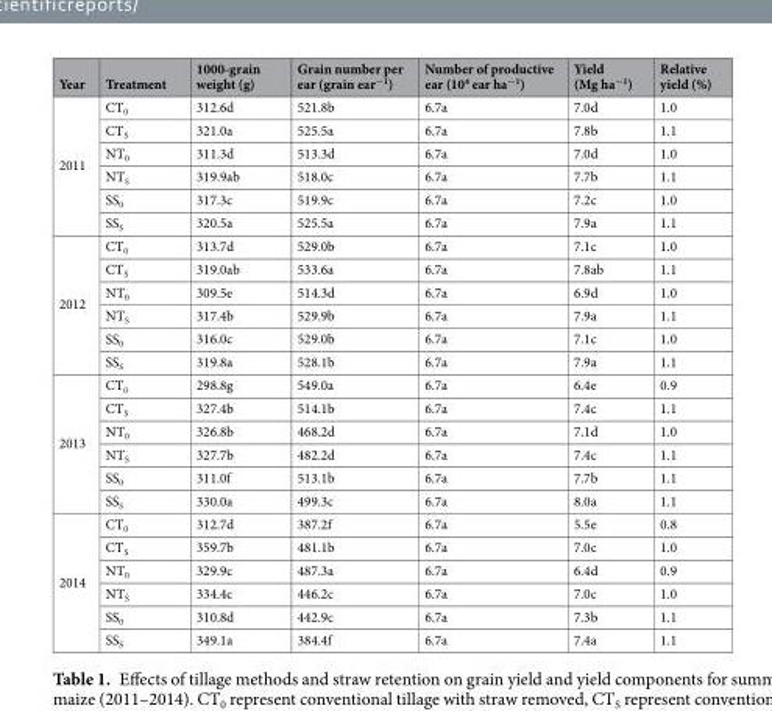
<table><thead><tr><td>Year</td><td>Treatment</td><td>1000-grain weight (g)</td><td>Grain number per ear (grain ear<sup>−1</sup>)</td><td>Number of productive ear (10<sup>4</sup> ear ha<sup>−1</sup>)</td><td>Yield (Mg ha<sup>−1</sup>)</td><td>Relative yield (%)</td></tr></thead><tbody><tr><td rowspan="6">2011</td><td>CT<sub>0</sub></td><td>312.6d</td><td>521.8b</td><td>6.7a</td><td>7.0d</td><td>1.0</td></tr><tr><td>CT<sub>S</sub></td><td>321.0a</td><td>525.5a</td><td>6.7a</td><td>7.8b</td><td>1.1</td></tr><tr><td>NT<sub>0</sub></td><td>311.3d</td><td>513.3d</td><td>6.7a</td><td>7.0d</td><td>1.0</td></tr><tr><td>NT<sub>S</sub></td><td>319.9ab</td><td>518.0c</td><td>6.7a</td><td>7.7b</td><td>1.1</td></tr><tr><td>SS<sub>0</sub></td><td>317.3c</td><td>519.9c</td><td>6.7a</td><td>7.2c</td><td>1.0</td></tr><tr><td>SS<sub>S</sub></td><td>320.5a</td><td>525.5a</td><td>6.7a</td><td>7.9a</td><td>1.1</td></tr><tr><td rowspan="6">2012</td><td>CT<sub>0</sub></td><td>313.7d</td><td>529.0b</td><td>6.7a</td><td>7.1c</td><td>1.0</td></tr><tr><td>CT<sub>S</sub></td><td>319.0ab</td><td>533.6a</td><td>6.7a</td><td>7.8ab</td><td>1.1</td></tr><tr><td>NT<sub>0</sub></td><td>309.5e</td><td>514.3d</td><td>6.7a</td><td>6.9d</td><td>1.0</td></tr><tr><td>NT<sub>S</sub></td><td>317.4b</td><td>529.9b</td><td>6.7a</td><td>7.9a</td><td>1.1</td></tr><tr><td>SS<sub>0</sub></td><td>316.0c</td><td>529.0b</td><td>6.7a</td><td>7.1c</td><td>1.0</td></tr><tr><td>SS<sub>S</sub></td><td>319.8a</td><td>528.1b</td><td>6.7a</td><td>7.9a</td><td>1.1</td></tr><tr><td rowspan="6">2013</td><td>CT<sub>0</sub></td><td>298.8g</td><td>549.0a</td><td>6.7a</td><td>6.4e</td><td>0.9</td></tr><tr><td>CT<sub>S</sub></td><td>327.4b</td><td>514.1b</td><td>6.7a</td><td>7.4c</td><td>1.1</td></tr><tr><td>NT<sub>0</sub></td><td>326.8b</td><td>468.2d</td><td>6.7a</td><td>7.1d</td><td>1.0</td></tr><tr><td>NT<sub>S</sub></td><td>327.7b</td><td>482.2d</td><td>6.7a</td><td>7.4c</td><td>1.1</td></tr><tr><td>SS<sub>0</sub></td><td>311.0f</td><td>513.1b</td><td>6.7a</td><td>7.7b</td><td>1.1</td></tr><tr><td>SS<sub>S</sub></td><td>330.0a</td><td>499.3c</td><td>6.7a</td><td>8.0a</td><td>1.1</td></tr><tr><td rowspan="6">2014</td><td>CT<sub>0</sub></td><td>312.7d</td><td>387.2f</td><td>6.7a</td><td>5.5e</td><td>0.8</td></tr><tr><td>CT<sub>S</sub></td><td>359.7b</td><td>481.1b</td><td>6.7a</td><td>7.0c</td><td>1.0</td></tr><tr><td>NT<sub>0</sub></td><td>329.9c</td><td>487.3a</td><td>6.7a</td><td>6.4d</td><td>0.9</td></tr><tr><td>NT<sub>S</sub></td><td>334.4c</td><td>446.2c</td><td>6.7a</td><td>7.0c</td><td>1.0</td></tr><tr><td>SS<sub>0</sub></td><td>310.8d</td><td>442.9c</td><td>6.7a</td><td>7.3b</td><td>1.1</td></tr><tr><td>SS<sub>S</sub></td><td>349.1a</td><td>384.4f</td><td>6.7a</td><td>7.4a</td><td>1.1</td></tr></tbody></table>